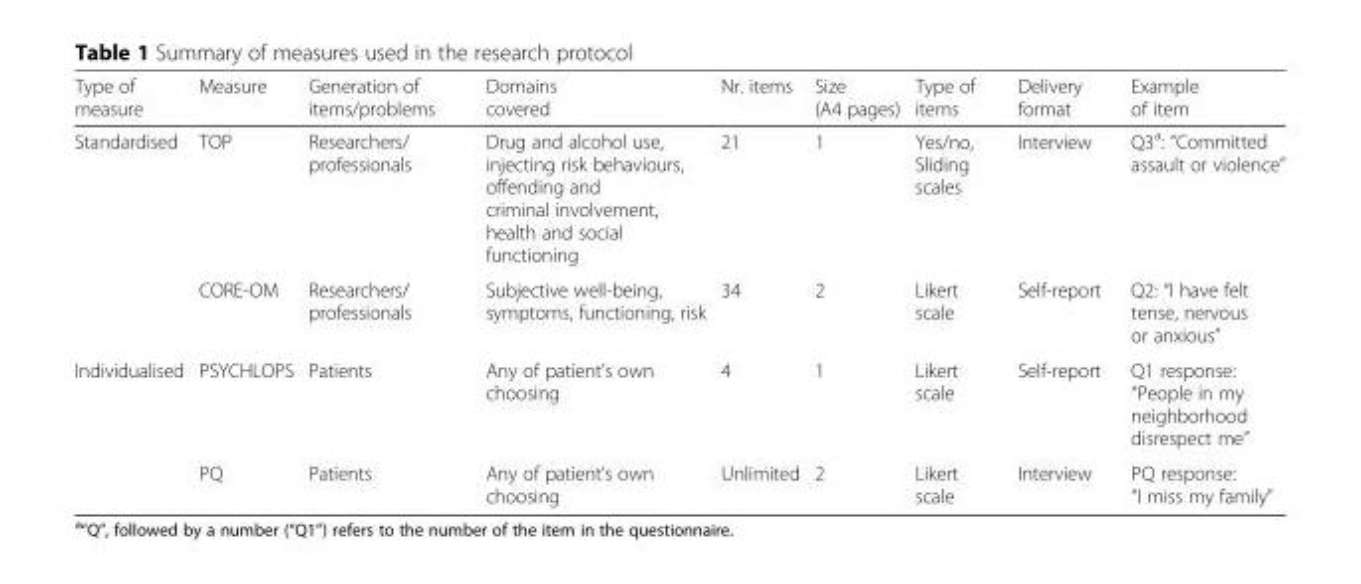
<table><thead><tr><td>Type of measure</td><td>Measure</td><td>Generation of items/problems</td><td>Domains covered</td><td>Nr. items</td><td>Size (A4 pages)</td><td>Type of items</td><td>Delivery format</td><td>Example of item</td></tr></thead><tbody><tr><td rowspan="2">Standardised</td><td>TOP</td><td>Researchers/ professionals</td><td>Drug and alcohol use, injecting risk behaviours, offending and criminal involvement, health and social functioning</td><td>21</td><td>1</td><td>Yes/no, Sliding scales</td><td>Interview</td><td>Q3<sup>a</sup>: “Committed assault or violence”</td></tr><tr><td>CORE-OM</td><td>Researchers/ professionals</td><td>Subjective well-being, symptoms, functioning, risk</td><td>34</td><td>2</td><td>Likert scale</td><td>Self-report</td><td>Q2: “I have felt tense, nervous or anxious”</td></tr><tr><td rowspan="2">Individualised</td><td>PSYCHLOPS</td><td>Patients</td><td>Any of patient’s own choosing</td><td>4</td><td>1</td><td>Likert scale</td><td>Self-report</td><td>Q1 response: “People in my neighborhood disrespect me”</td></tr><tr><td>PQ</td><td>Patients</td><td>Any of patient’s own choosing</td><td>Unlimited</td><td>2</td><td>Likert scale</td><td>Interview</td><td>PQ response: “I miss my family”</td></tr></tbody></table>